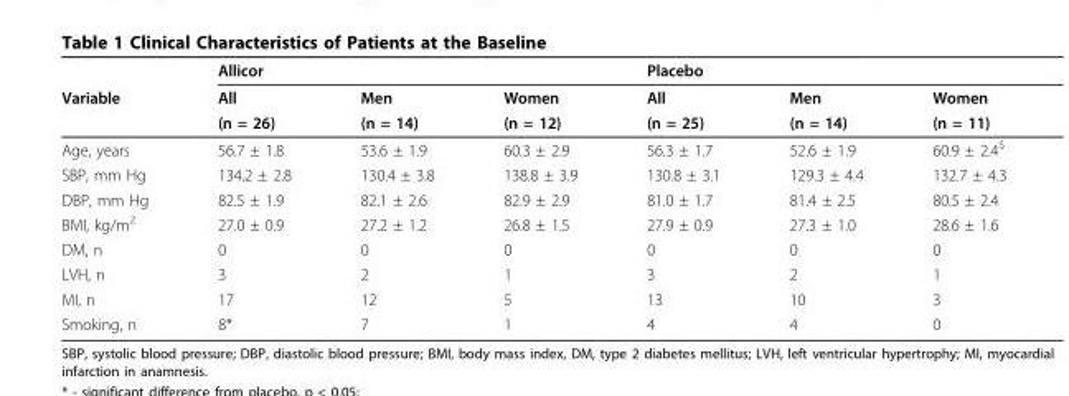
<table><thead><tr><td rowspan="3">Variable</td><td colspan="3">Allicor</td><td colspan="3">Placebo</td></tr><tr><td rowspan="2">All (n = 26)</td><td rowspan="2">Men (n = 14)</td><td rowspan="2">Women (n = 12)</td><td rowspan="2">All (n = 25)</td><td rowspan="2">Men (n = 14)</td><td rowspan="2">Women (n = 11)</td></tr><tr></tr></thead><tbody><tr><td>Age, years</td><td>56.7 ± 1.8</td><td>53.6 ± 1.9</td><td>60.3 ± 2.9</td><td>56.3 ± 1.7</td><td>52.6 ± 1.9</td><td>60.9 ± 2.4<sup>$</sup></td></tr><tr><td>SBP, mm Hg</td><td>134.2 ± 2.8</td><td>130.4 ± 3.8</td><td>138.8 ± 3.9</td><td>130.8 ± 3.1</td><td>129.3 ± 4.4</td><td>132.7 ± 4.3</td></tr><tr><td>DBP, mm Hg</td><td>82.5 ± 1.9</td><td>82.1 ± 2.6</td><td>82.9 ± 2.9</td><td>81.0 ± 1.7</td><td>81.4 ± 2.5</td><td>80.5 ± 2.4</td></tr><tr><td>BMI, kg/m<sup>2</sup></td><td>27.0 ± 0.9</td><td>27.2 ± 1.2</td><td>26.8 ± 1.5</td><td>27.9 ± 0.9</td><td>27.3 ± 1.0</td><td>28.6 ± 1.6</td></tr><tr><td>DM, n</td><td>0</td><td>0</td><td>0</td><td>0</td><td>0</td><td>0</td></tr><tr><td>LVH, n</td><td>3</td><td>2</td><td>1</td><td>3</td><td>2</td><td>1</td></tr><tr><td>MI, n</td><td>17</td><td>12</td><td>5</td><td>13</td><td>10</td><td>3</td></tr><tr><td>Smoking, n</td><td>8*</td><td>7</td><td>1</td><td>4</td><td>4</td><td>0</td></tr></tbody></table>